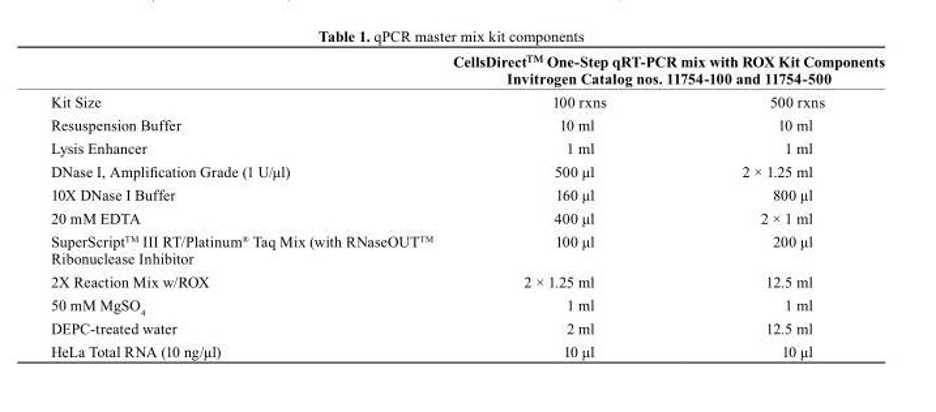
<table><thead><tr><td rowspan="2">Kit Size</td><td colspan="2">CellsDirect™ One-Step qRT-PCR mix with ROX Kit Components Invitrogen Catalog nos. 11754-100 and 11754-500</td></tr><tr><td>100 rxns</td><td>500 rxns</td></tr></thead><tbody><tr><td>Resuspension Buffer</td><td>10 ml</td><td>10 ml</td></tr><tr><td>Lysis Enhancer</td><td>1 ml</td><td>1 ml</td></tr><tr><td>DNase I, Amplification Grade (1 U/μl)</td><td>500 μl</td><td>2 × 1.25 ml</td></tr><tr><td>10X DNase I Buffer</td><td>160 μl</td><td>800 μl</td></tr><tr><td>20 mM EDTA</td><td>400 μl</td><td>2 × 1 ml</td></tr><tr><td>SuperScriptTM III RT/Platinum<sup>®</sup> Taq Mix (with RNaseOUTTM Ribonuclease Inhibitor</td><td>100 μl</td><td>200 μl</td></tr><tr><td>2X Reaction Mix w/ROX</td><td>2 × 1.25 ml</td><td>12.5 ml</td></tr><tr><td>50 mM MgSO<sub>4</sub></td><td>1 ml</td><td>1 ml</td></tr><tr><td>DEPC-treated water</td><td>2 ml</td><td>12.5 ml</td></tr><tr><td>HeLa Total RNA (10 ng/μl)</td><td>10 μl</td><td>10 μl</td></tr></tbody></table>